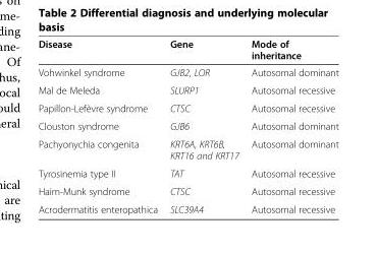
<table><thead><tr><td>Disease</td><td>Gene</td><td>Mode of inheritance</td></tr></thead><tbody><tr><td>Vohwinkel syndrome</td><td>GJB2, LOR</td><td>Autosomal dominant</td></tr><tr><td>Mal de Meleda</td><td>SLURP1</td><td>Autosomal recessive</td></tr><tr><td>Papillon-Lefèvre syndrome</td><td>CTSC</td><td>Autosomal recessive</td></tr><tr><td>Clouston syndrome</td><td>GJB6</td><td>Autosomal dominant</td></tr><tr><td>Pachyonychia congenita</td><td>KRT6A, KRT6B, KRT16 and KRT17</td><td>Autosomal dominant</td></tr><tr><td>Tyrosinemia type II</td><td>TAT</td><td>Autosomal recessive</td></tr><tr><td>Haim-Munk syndrome</td><td>CTSC</td><td>Autosomal recessive</td></tr><tr><td>Acrodermatitis enteropathica</td><td>SLC39A4</td><td>Autosomal recessive</td></tr></tbody></table>